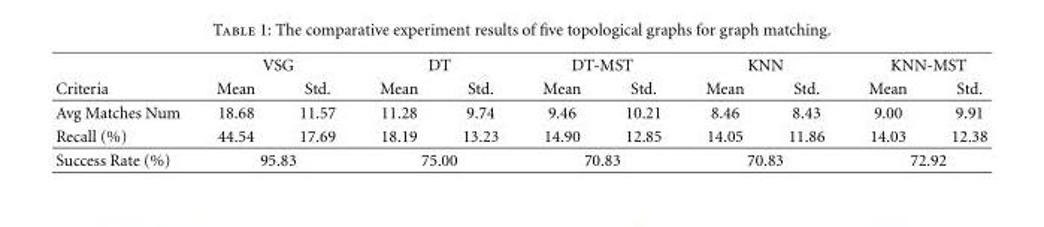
<table><thead><tr><td rowspan="2">Criteria</td><td colspan="2">VSG</td><td colspan="2">DT</td><td colspan="2">DT-MST</td><td colspan="2">KNN</td><td colspan="2">KNN-MST</td></tr><tr><td>Mean</td><td>Std.</td><td>Mean</td><td>Std.</td><td>Mean</td><td>Std.</td><td>Mean</td><td>Std.</td><td>Mean</td><td>Std.</td></tr></thead><tbody><tr><td>Avg Matches Num</td><td>18.68</td><td>11.57</td><td>11.28</td><td>9.74</td><td>9.46</td><td>10.21</td><td>8.46</td><td>8.43</td><td>9.00</td><td>9.91</td></tr><tr><td>Recall (%)</td><td>44.54</td><td>17.69</td><td>18.19</td><td>13.23</td><td>14.90</td><td>12.85</td><td>14.05</td><td>11.86</td><td>14.03</td><td>12.38</td></tr><tr><td>Success Rate (%)</td><td colspan="2">95.83</td><td colspan="2">75.00</td><td colspan="2">70.83</td><td colspan="2">70.83</td><td colspan="2">72.92</td></tr></tbody></table>